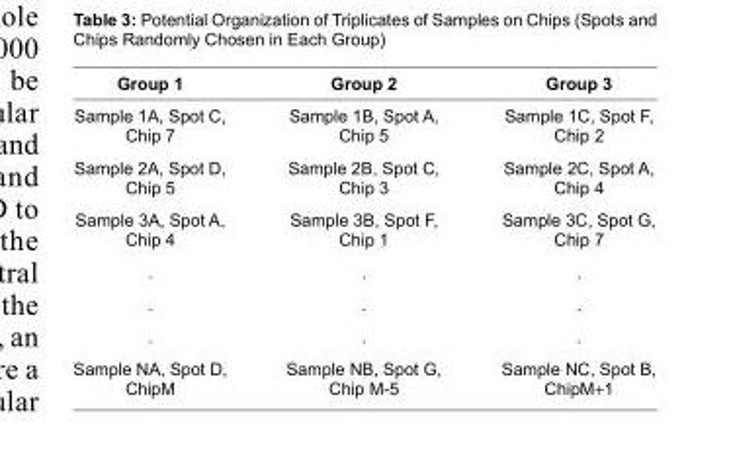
<table><thead><tr><td>Group 1</td><td>Group 2</td><td>Group 3</td></tr></thead><tbody><tr><td>Sample 1A, Spot C, Chip 7</td><td>Sample 1B, Spot A, Chip 5</td><td>Sample 1C, Spot F, Chip 2</td></tr><tr><td>Sample 2A, Spot D, Chip 5</td><td>Sample 2B, Spot C, Chip 3</td><td>Sample 2C, Spot A, Chip 4</td></tr><tr><td>Sample 3A, Spot A, Chip 4</td><td>Sample 3B, Spot F, Chip 1</td><td>Sample 3C, Spot G, Chip 7</td></tr><tr><td>.</td><td>.</td><td>.</td></tr><tr><td>.</td><td>.</td><td>.</td></tr><tr><td>.</td><td>.</td><td>.</td></tr><tr><td>Sample NA, Spot D, ChipM</td><td>Sample NB, Spot G, Chip M-5</td><td>Sample NC, Spot B, ChipM+1</td></tr></tbody></table>